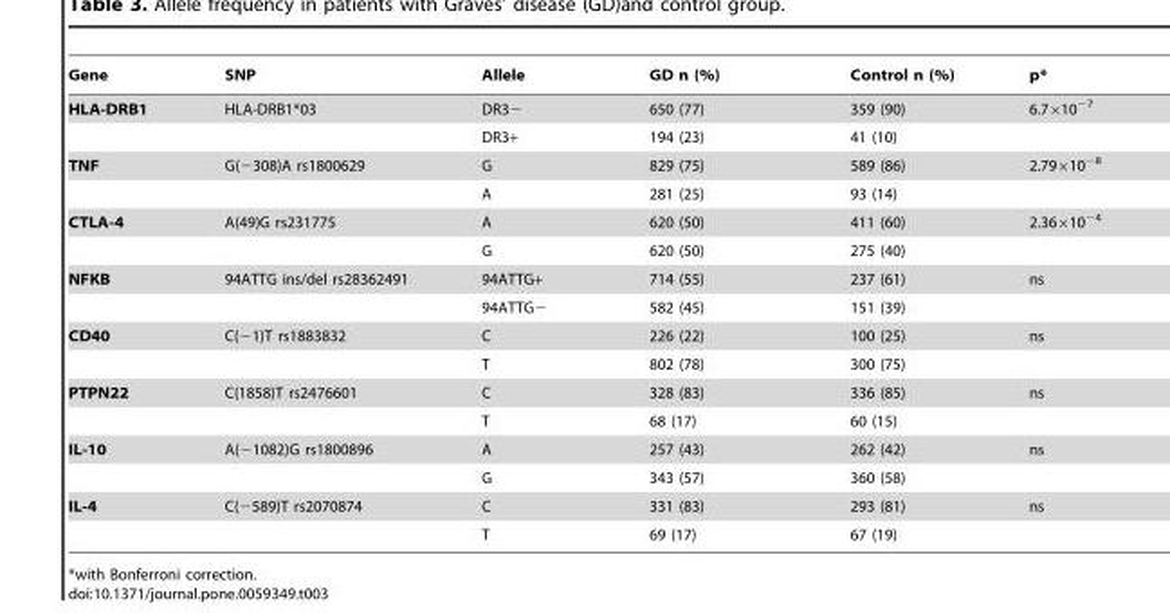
<table><thead><tr><td>Gene</td><td>SNP</td><td>Allele</td><td>GD n (%)</td><td>Control n (%)</td><td>p*</td></tr></thead><tbody><tr><td rowspan="2">HLA-DRB1</td><td>HLA-DRB1*03</td><td>DR3−</td><td>650 (77)</td><td>359 (90)</td><td>6.7×10<sup>−7</sup></td></tr><tr><td></td><td>DR3+</td><td>194 (23)</td><td>41 (10)</td><td></td></tr><tr><td rowspan="2">TNF</td><td>G(−308)A rs1800629</td><td>G</td><td>829 (75)</td><td>589 (86)</td><td>2.79×10<sup>−8</sup></td></tr><tr><td></td><td>A</td><td>281 (25)</td><td>93 (14)</td><td></td></tr><tr><td rowspan="2">CTLA-4</td><td>A(49)G rs231775</td><td>A</td><td>620 (50)</td><td>411 (60)</td><td>2.36×10<sup>−4</sup></td></tr><tr><td></td><td>G</td><td>620 (50)</td><td>275 (40)</td><td></td></tr><tr><td rowspan="2">NFKB</td><td>94ATTG ins/del rs28362491</td><td>94ATTG+</td><td>714 (55)</td><td>237 (61)</td><td>ns</td></tr><tr><td></td><td>94ATTG−</td><td>582 (45)</td><td>151 (39)</td><td></td></tr><tr><td rowspan="2">CD40</td><td>C(−1)T rs1883832</td><td>C</td><td>226 (22)</td><td>100 (25)</td><td>ns</td></tr><tr><td></td><td>T</td><td>802 (78)</td><td>300 (75)</td><td></td></tr><tr><td rowspan="2">PTPN22</td><td>C(1858)T rs2476601</td><td>C</td><td>328 (83)</td><td>336 (85)</td><td>ns</td></tr><tr><td></td><td>T</td><td>68 (17)</td><td>60 (15)</td><td></td></tr><tr><td rowspan="2">IL-10</td><td>A(−1082)G rs1800896</td><td>A</td><td>257 (43)</td><td>262 (42)</td><td>ns</td></tr><tr><td></td><td>G</td><td>343 (57)</td><td>360 (58)</td><td></td></tr><tr><td rowspan="2">IL-4</td><td>C(−589)T rs2070874</td><td>C</td><td>331 (83)</td><td>293 (81)</td><td>ns</td></tr><tr><td></td><td>T</td><td>69 (17)</td><td>67 (19)</td><td></td></tr></tbody></table>